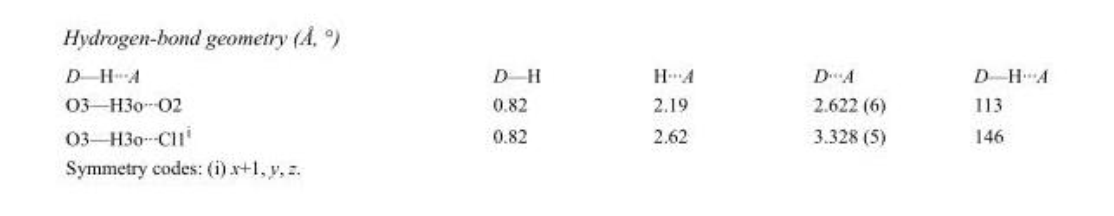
<table><tbody><tr><td>D—H···A</td><td>D—H</td><td>H···A</td><td>D···A</td><td>D—H···A</td></tr><tr><td>O3—H3o···O2</td><td>0.82</td><td>2.19</td><td>2.622 (6)</td><td>113</td></tr><tr><td>O3—H3o···Cl1<sup>i</sup></td><td>0.82</td><td>2.62</td><td>3.328 (5)</td><td>146</td></tr></tbody></table>